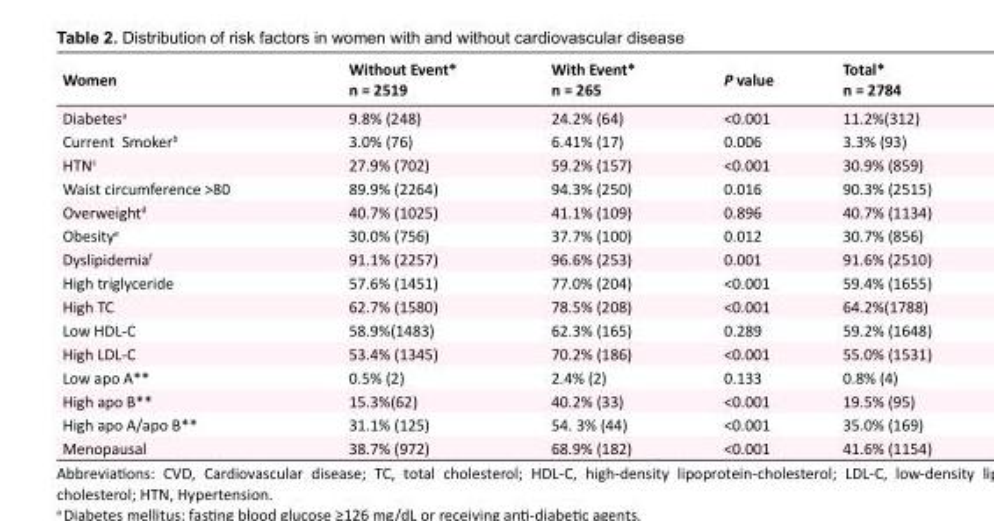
<table><tbody><tr><td>Women</td><td>Without Event* n = 2519</td><td>With Event* n = 265</td><td>P value</td><td>Total* n = 2784</td></tr><tr><td>Diabetes<sup>a</sup></td><td>9.8% (248)</td><td>24.2% (64)</td><td>&lt;0.001</td><td>11.2%(312)</td></tr><tr><td>Current Smoker<sup>b</sup></td><td>3.0% (76)</td><td>6.41% (17)</td><td>0.006</td><td>3.3% (93)</td></tr><tr><td>HTN<sup>c</sup></td><td>27.9% (702)</td><td>59.2% (157)</td><td>&lt;0.001</td><td>30.9% (859)</td></tr><tr><td>Waist circumference &gt;80</td><td>89.9% (2264)</td><td>94.3% (250)</td><td>0.016</td><td>90.3% (2515)</td></tr><tr><td>Overweight<sup>d</sup></td><td>40.7% (1025)</td><td>41.1% (109)</td><td>0.896</td><td>40.7% (1134)</td></tr><tr><td>Obesity<sup>e</sup></td><td>30.0% (756)</td><td>37.7% (100)</td><td>0.012</td><td>30.7% (856)</td></tr><tr><td>Dyslipidemia<sup>f</sup></td><td>91.1% (2257)</td><td>96.6% (253)</td><td>0.001</td><td>91.6% (2510)</td></tr><tr><td>High triglyceride</td><td>57.6% (1451)</td><td>77.0% (204)</td><td>&lt;0.001</td><td>59.4% (1655)</td></tr><tr><td>High TC</td><td>62.7% (1580)</td><td>78.5% (208)</td><td>&lt;0.001</td><td>64.2%(1788)</td></tr><tr><td>Low HDL-C</td><td>58.9%(1483)</td><td>62.3% (165)</td><td>0.289</td><td>59.2% (1648)</td></tr><tr><td>High LDL-C</td><td>53.4% (1345)</td><td>70.2% (186)</td><td>&lt;0.001</td><td>55.0% (1531)</td></tr><tr><td>Low apo A**</td><td>0.5% (2)</td><td>2.4% (2)</td><td>0.133</td><td>0.8% (4)</td></tr><tr><td>High apo B**</td><td>15.3%(62)</td><td>40.2% (33)</td><td>&lt;0.001</td><td>19.5% (95)</td></tr><tr><td>High apo A/apo B**</td><td>31.1% (125)</td><td>54. 3% (44)</td><td>&lt;0.001</td><td>35.0% (169)</td></tr><tr><td>Menopausal</td><td>38.7% (972)</td><td>68.9% (182)</td><td>&lt;0.001</td><td>41.6% (1154)</td></tr></tbody></table>